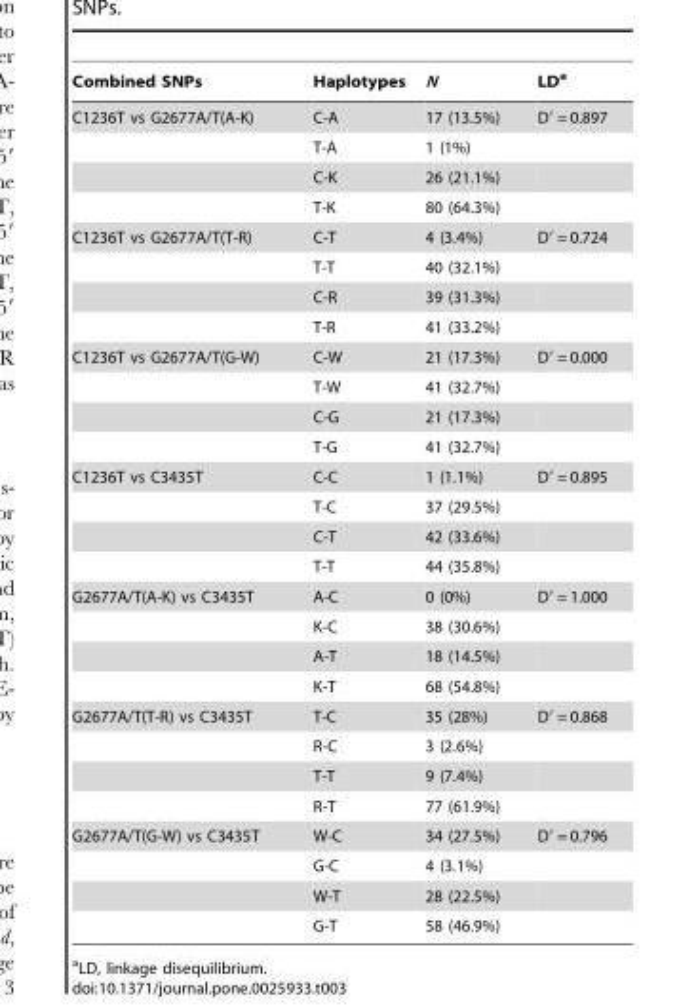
<table><thead><tr><td>Combined SNPs</td><td>Haplotypes</td><td>N</td><td>LDa</td></tr></thead><tbody><tr><td rowspan="4">C1236T vs G2677A/T(A-K)</td><td>C-A</td><td>17 (13.5%)</td><td>D′ = 0.897</td></tr><tr><td>T-A</td><td>1 (1%)</td><td></td></tr><tr><td>C-K</td><td>26 (21.1%)</td><td></td></tr><tr><td>T-K</td><td>80 (64.3%)</td><td></td></tr><tr><td rowspan="4">C1236T vs G2677A/T(T-R)</td><td>C-T</td><td>4 (3.4%)</td><td>D′ = 0.724</td></tr><tr><td>T-T</td><td>40 (32.1%)</td><td></td></tr><tr><td>C-R</td><td>39 (31.3%)</td><td></td></tr><tr><td>T-R</td><td>41 (33.2%)</td><td></td></tr><tr><td rowspan="4">C1236T vs G2677A/T(G-W)</td><td>C-W</td><td>21 (17.3%)</td><td>D′ = 0.000</td></tr><tr><td>T-W</td><td>41 (32.7%)</td><td></td></tr><tr><td>C-G</td><td>21 (17.3%)</td><td></td></tr><tr><td>T-G</td><td>41 (32.7%)</td><td></td></tr><tr><td rowspan="4">C1236T vs C3435T</td><td>C-C</td><td>1 (1.1%)</td><td>D′ = 0.895</td></tr><tr><td>T-C</td><td>37 (29.5%)</td><td></td></tr><tr><td>C-T</td><td>42 (33.6%)</td><td></td></tr><tr><td>T-T</td><td>44 (35.8%)</td><td></td></tr><tr><td rowspan="4">G2677A/T(A-K) vs C3435T</td><td>A-C</td><td>0 (0%)</td><td>D′ = 1.000</td></tr><tr><td>K-C</td><td>38 (30.6%)</td><td></td></tr><tr><td>A-T</td><td>18 (14.5%)</td><td></td></tr><tr><td>K-T</td><td>68 (54.8%)</td><td></td></tr><tr><td rowspan="4">G2677A/T(T-R) vs C3435T</td><td>T-C</td><td>35 (28%)</td><td>D′ = 0.868</td></tr><tr><td>R-C</td><td>3 (2.6%)</td><td></td></tr><tr><td>T-T</td><td>9 (7.4%)</td><td></td></tr><tr><td>R-T</td><td>77 (61.9%)</td><td></td></tr><tr><td rowspan="4">G2677A/T(G-W) vs C3435T</td><td>W-C</td><td>34 (27.5%)</td><td>D′ = 0.796</td></tr><tr><td>G-C</td><td>4 (3.1%)</td><td></td></tr><tr><td>W-T</td><td>28 (22.5%)</td><td></td></tr><tr><td>G-T</td><td>58 (46.9%)</td><td></td></tr></tbody></table>